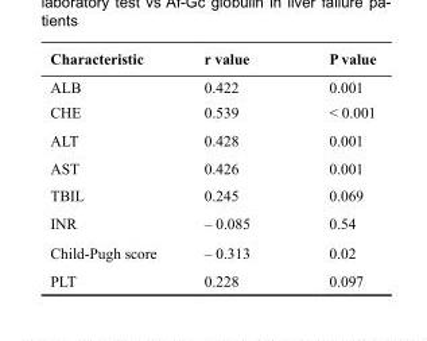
<table><thead><tr><td>Characteristic</td><td>r value</td><td>P value</td></tr></thead><tbody><tr><td>ALB</td><td>0.422</td><td>0.001</td></tr><tr><td>CHE</td><td>0.539</td><td>&lt; 0.001</td></tr><tr><td>ALT</td><td>0.428</td><td>0.001</td></tr><tr><td>AST</td><td>0.426</td><td>0.001</td></tr><tr><td>TBIL</td><td>0.245</td><td>0.069</td></tr><tr><td>INR</td><td>– 0.085</td><td>0.54</td></tr><tr><td>Child-Pugh score</td><td>– 0.313</td><td>0.02</td></tr><tr><td>PLT</td><td>0.228</td><td>0.097</td></tr></tbody></table>